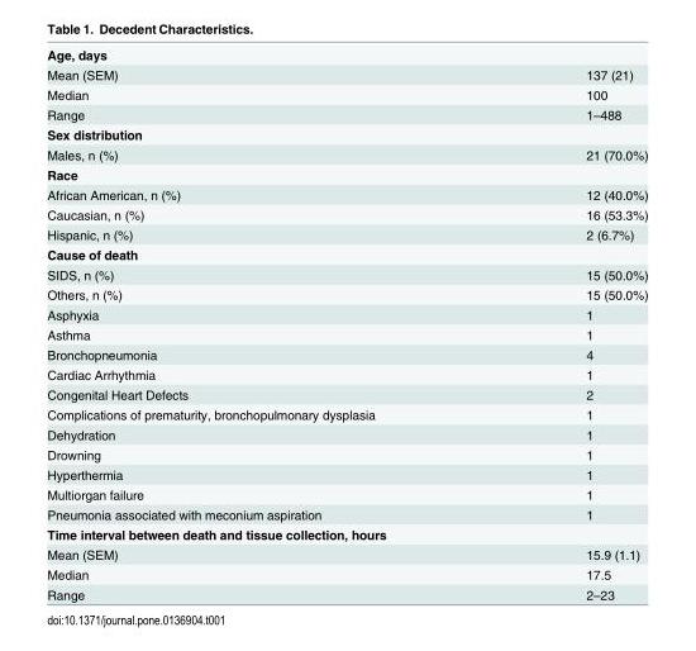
<table><tbody><tr><td colspan="2">Age, days</td></tr><tr><td>Mean (SEM)</td><td>137 (21)</td></tr><tr><td>Median</td><td>100</td></tr><tr><td>Range</td><td>1–488</td></tr><tr><td colspan="2">Sex distribution</td></tr><tr><td>Males, n (%)</td><td>21 (70.0%)</td></tr><tr><td colspan="2">Race</td></tr><tr><td>African American, n (%)</td><td>12 (40.0%)</td></tr><tr><td>Caucasian, n (%)</td><td>16 (53.3%)</td></tr><tr><td>Hispanic, n (%)</td><td>2 (6.7%)</td></tr><tr><td colspan="2">Cause of death</td></tr><tr><td>SIDS, n (%)</td><td>15 (50.0%)</td></tr><tr><td>Others, n (%)</td><td>15 (50.0%)</td></tr><tr><td>Asphyxia</td><td>1</td></tr><tr><td>Asthma</td><td>1</td></tr><tr><td>Bronchopneumonia</td><td>4</td></tr><tr><td>Cardiac Arrhythmia</td><td>1</td></tr><tr><td>Congenital Heart Defects</td><td>2</td></tr><tr><td>Complications of prematurity, bronchopulmonary dysplasia</td><td>1</td></tr><tr><td>Dehydration</td><td>1</td></tr><tr><td>Drowning</td><td>1</td></tr><tr><td>Hyperthermia</td><td>1</td></tr><tr><td>Multiorgan failure</td><td>1</td></tr><tr><td>Pneumonia associated with meconium aspiration</td><td>1</td></tr><tr><td colspan="2">Time interval between death and tissue collection, hours</td></tr><tr><td>Mean (SEM)</td><td>15.9 (1.1)</td></tr><tr><td>Median</td><td>17.5</td></tr><tr><td>Range</td><td>2–23</td></tr></tbody></table>